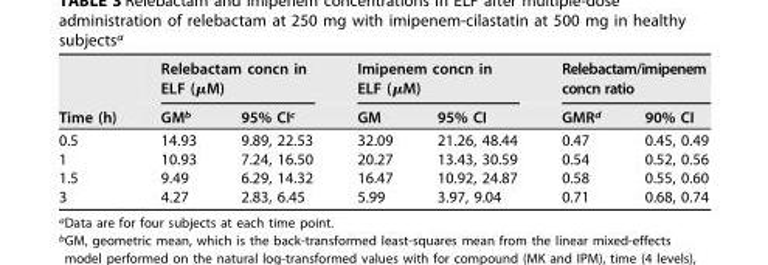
<table><thead><tr><td rowspan="2">Time (h)</td><td colspan="2">Relebactam concn in ELF (μM)</td><td colspan="2">Imipenem concn in ELF (μM)</td><td colspan="2">Relebactam/imipenem concn ratio</td></tr><tr><td>GM<sup>b</sup></td><td>95% CI<sup>c</sup></td><td>GM</td><td>95% CI</td><td>GMR<sup>d</sup></td><td>90% CI</td></tr></thead><tbody><tr><td>0.5</td><td>14.93</td><td>9.89, 22.53</td><td>32.09</td><td>21.26, 48.44</td><td>0.47</td><td>0.45, 0.49</td></tr><tr><td>1</td><td>10.93</td><td>7.24, 16.50</td><td>20.27</td><td>13.43, 30.59</td><td>0.54</td><td>0.52, 0.56</td></tr><tr><td>1.5</td><td>9.49</td><td>6.29, 14.32</td><td>16.47</td><td>10.92, 24.87</td><td>0.58</td><td>0.55, 0.60</td></tr><tr><td>3</td><td>4.27</td><td>2.83, 6.45</td><td>5.99</td><td>3.97, 9.04</td><td>0.71</td><td>0.68, 0.74</td></tr></tbody></table>